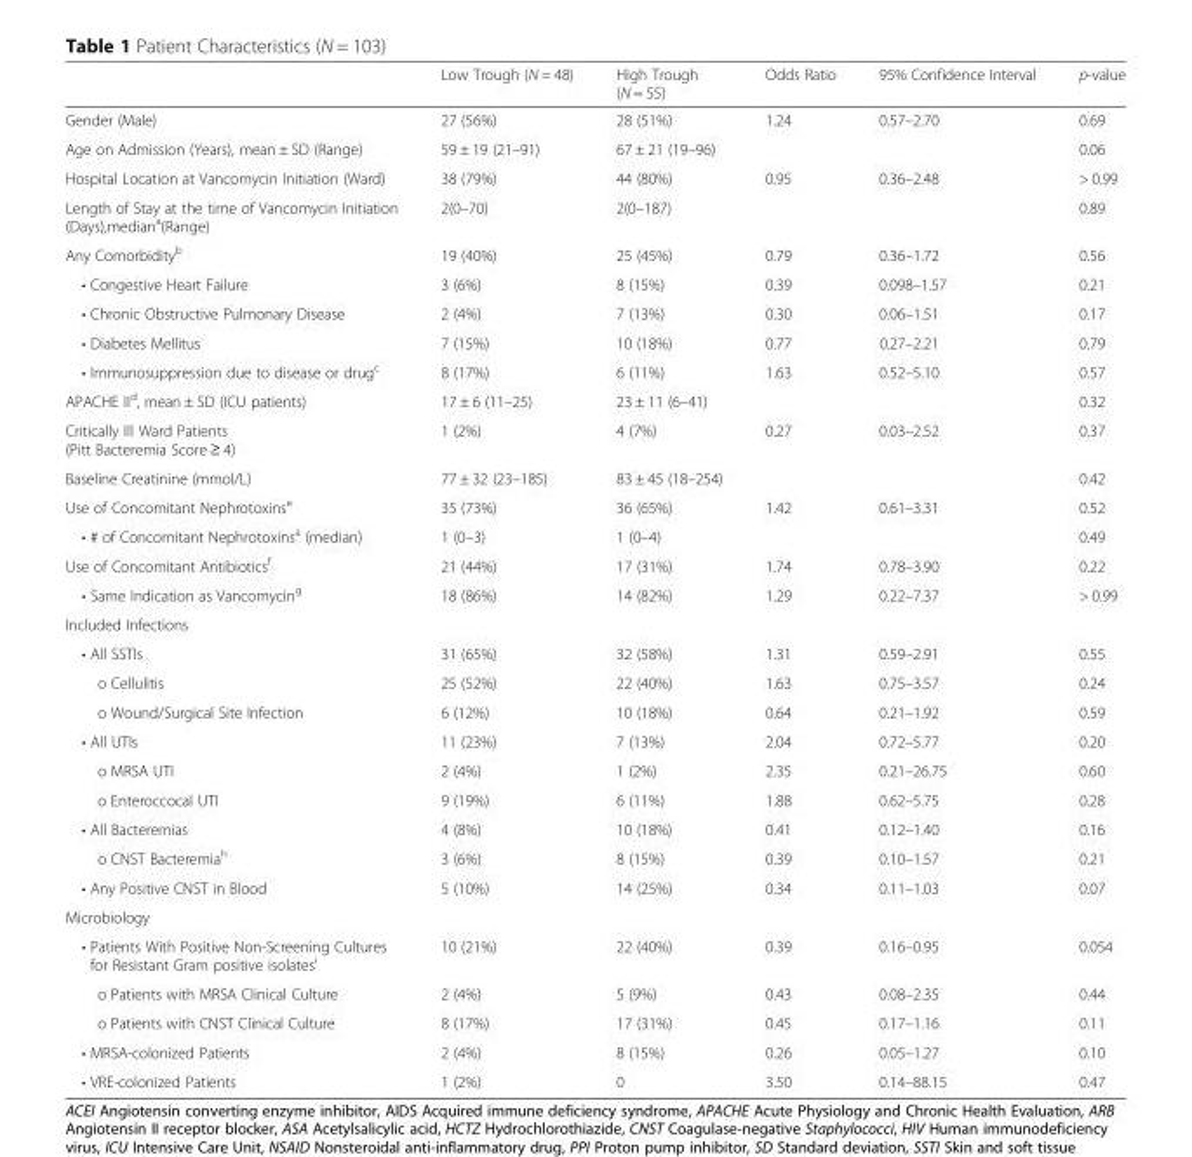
<table><thead><tr><td></td><td>Low Trough (N = 48)</td><td>High Trough (N = 55)</td><td>Odds Ratio</td><td>95% Confidence Interval</td><td>p-value</td></tr></thead><tbody><tr><td>Gender (Male)</td><td>27 (56%)</td><td>28 (51%)</td><td>1.24</td><td>0.57–2.70</td><td>0.69</td></tr><tr><td>Age on Admission (Years), mean ± SD (Range)</td><td>59 ± 19 (21–91)</td><td>67 ± 21 (19–96)</td><td></td><td></td><td>0.06</td></tr><tr><td>Hospital Location at Vancomycin Initiation (Ward)</td><td>38 (79%)</td><td>44 (80%)</td><td>0.95</td><td>0.36–2.48</td><td>&gt; 0.99</td></tr><tr><td>Length of Stay at the time of Vancomycin Initiation (Days),median<sup>a</sup>(Range)</td><td>2(0–70)</td><td>2(0–187)</td><td></td><td></td><td>0.89</td></tr><tr><td>Any Comorbidity<sup>b</sup></td><td>19 (40%)</td><td>25 (45%)</td><td>0.79</td><td>0.36–1.72</td><td>0.56</td></tr><tr><td>• Congestive Heart Failure</td><td>3 (6%)</td><td>8 (15%)</td><td>0.39</td><td>0.098–1.57</td><td>0.21</td></tr><tr><td>• Chronic Obstructive Pulmonary Disease</td><td>2 (4%)</td><td>7 (13%)</td><td>0.30</td><td>0.06–1.51</td><td>0.17</td></tr><tr><td>• Diabetes Mellitus</td><td>7 (15%)</td><td>10 (18%)</td><td>0.77</td><td>0.27–2.21</td><td>0.79</td></tr><tr><td>• Immunosuppression due to disease or drug<sup>c</sup></td><td>8 (17%)</td><td>6 (11%)</td><td>1.63</td><td>0.52–5.10</td><td>0.57</td></tr><tr><td>APACHE II<sup>d</sup>, mean ± SD (ICU patients)</td><td>17 ± 6 (11–25)</td><td>23 ± 11 (6–41)</td><td></td><td></td><td>0.32</td></tr><tr><td>Critically Ill Ward Patients (Pitt Bacteremia Score ≥ 4)</td><td>1 (2%)</td><td>4 (7%)</td><td>0.27</td><td>0.03–2.52</td><td>0.37</td></tr><tr><td>Baseline Creatinine (mmol/L)</td><td>77 ± 32 (23–185)</td><td>83 ± 45 (18–254)</td><td></td><td></td><td>0.42</td></tr><tr><td>Use of Concomitant Nephrotoxins<sup>e</sup></td><td>35 (73%)</td><td>36 (65%)</td><td>1.42</td><td>0.61–3.31</td><td>0.52</td></tr><tr><td>• # of Concomitant Nephrotoxins<sup>a</sup> (median)</td><td>1 (0–3)</td><td>1 (0–4)</td><td></td><td></td><td>0.49</td></tr><tr><td>Use of Concomitant Antibiotics<sup>f</sup></td><td>21 (44%)</td><td>17 (31%)</td><td>1.74</td><td>0.78–3.90</td><td>0.22</td></tr><tr><td>• Same Indication as Vancomycin<sup>g</sup></td><td>18 (86%)</td><td>14 (82%)</td><td>1.29</td><td>0.22–7.37</td><td>&gt; 0.99</td></tr><tr><td colspan="6">Included Infections</td></tr><tr><td>• All SSTIs</td><td>31 (65%)</td><td>32 (58%)</td><td>1.31</td><td>0.59–2.91</td><td>0.55</td></tr><tr><td>o Cellulitis</td><td>25 (52%)</td><td>22 (40%)</td><td>1.63</td><td>0.75–3.57</td><td>0.24</td></tr><tr><td>o Wound/Surgical Site Infection</td><td>6 (12%)</td><td>10 (18%)</td><td>0.64</td><td>0.21–1.92</td><td>0.59</td></tr><tr><td>• All UTIs</td><td>11 (23%)</td><td>7 (13%)</td><td>2.04</td><td>0.72–5.77</td><td>0.20</td></tr><tr><td>o MRSA UTI</td><td>2 (4%)</td><td>1 (2%)</td><td>2.35</td><td>0.21–26.75</td><td>0.60</td></tr><tr><td>o Enteroccocal UTI</td><td>9 (19%)</td><td>6 (11%)</td><td>1.88</td><td>0.62–5.75</td><td>0.28</td></tr><tr><td>• All Bacteremias</td><td>4 (8%)</td><td>10 (18%)</td><td>0.41</td><td>0.12–1.40</td><td>0.16</td></tr><tr><td>o CNST Bacteremia<sup>h</sup></td><td>3 (6%)</td><td>8 (15%)</td><td>0.39</td><td>0.10–1.57</td><td>0.21</td></tr><tr><td>• Any Positive CNST in Blood</td><td>5 (10%)</td><td>14 (25%)</td><td>0.34</td><td>0.11–1.03</td><td>0.07</td></tr><tr><td colspan="6">Microbiology</td></tr><tr><td>• Patients With Positive Non-Screening Cultures for Resistant Gram positive isolates<sup>i</sup></td><td>10 (21%)</td><td>22 (40%)</td><td>0.39</td><td>0.16–0.95</td><td>0.054</td></tr><tr><td>o Patients with MRSA Clinical Culture</td><td>2 (4%)</td><td>5 (9%)</td><td>0.43</td><td>0.08–2.35</td><td>0.44</td></tr><tr><td>o Patients with CNST Clinical Culture</td><td>8 (17%)</td><td>17 (31%)</td><td>0.45</td><td>0.17–1.16</td><td>0.11</td></tr><tr><td>• MRSA-colonized Patients</td><td>2 (4%)</td><td>8 (15%)</td><td>0.26</td><td>0.05–1.27</td><td>0.10</td></tr><tr><td>• VRE-colonized Patients</td><td>1 (2%)</td><td>0</td><td>3.50</td><td>0.14–88.15</td><td>0.47</td></tr></tbody></table>